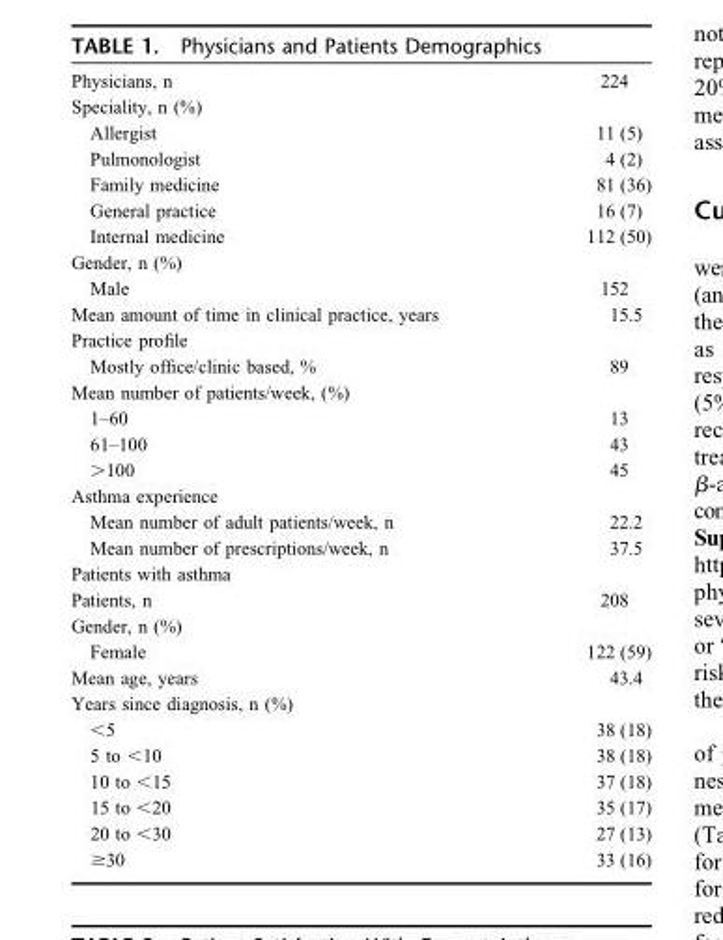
<table><tbody><tr><td>Physicians, n</td><td>224</td></tr><tr><td colspan="2">Speciality, n (%)</td></tr><tr><td>Allergist</td><td>11 (5)</td></tr><tr><td>Pulmonologist</td><td>4 (2)</td></tr><tr><td>Family medicine</td><td>81 (36)</td></tr><tr><td>General practice</td><td>16 (7)</td></tr><tr><td>Internal medicine</td><td>112 (50)</td></tr><tr><td colspan="2">Gender, n (%)</td></tr><tr><td>Male</td><td>152</td></tr><tr><td>Mean amount of time in clinical practice, years</td><td>15.5</td></tr><tr><td colspan="2">Practice profile</td></tr><tr><td>Mostly office/clinic based, %</td><td>89</td></tr><tr><td colspan="2">Mean number of patients/week, (%)</td></tr><tr><td>1–60</td><td>13</td></tr><tr><td>61–100</td><td>43</td></tr><tr><td>&gt;100</td><td>45</td></tr><tr><td colspan="2">Asthma experience</td></tr><tr><td>Mean number of adult patients/week, n</td><td>22.2</td></tr><tr><td>Mean number of prescriptions/week, n</td><td>37.5</td></tr><tr><td colspan="2">Patients with asthma</td></tr><tr><td>Patients, n</td><td>208</td></tr><tr><td colspan="2">Gender, n (%)</td></tr><tr><td>Female</td><td>122 (59)</td></tr><tr><td>Mean age, years</td><td>43.4</td></tr><tr><td colspan="2">Years since diagnosis, n (%)</td></tr><tr><td>&lt;5</td><td>38 (18)</td></tr><tr><td>5 to &lt;10</td><td>38 (18)</td></tr><tr><td>10 to &lt;15</td><td>37 (18)</td></tr><tr><td>15 to &lt;20</td><td>35 (17)</td></tr><tr><td>20 to &lt;30</td><td>27 (13)</td></tr><tr><td>≥30</td><td>33 (16)</td></tr></tbody></table>